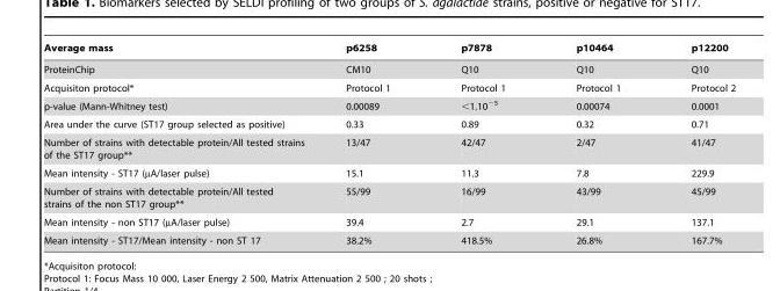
<table><thead><tr><td>Average mass</td><td>p6258</td><td>p7878</td><td>p10464</td><td>p12200</td></tr></thead><tbody><tr><td>ProteinChip</td><td>CM10</td><td>Q10</td><td>Q10</td><td>Q10</td></tr><tr><td>Acquisiton protocol*</td><td>Protocol 1</td><td>Protocol 1</td><td>Protocol 1</td><td>Protocol 2</td></tr><tr><td>p-value (Mann-Whitney test)</td><td>0.00089</td><td>&lt;1.10<sup>−5</sup></td><td>0.00074</td><td>0.0001</td></tr><tr><td>Area under the curve (ST17 group selected as positive)</td><td>0.33</td><td>0.89</td><td>0.32</td><td>0.71</td></tr><tr><td>Number of strains with detectable protein/All tested strains of the ST17 group**</td><td>13/47</td><td>42/47</td><td>2/47</td><td>41/47</td></tr><tr><td>Mean intensity - ST17 (µA/laser pulse)</td><td>15.1</td><td>11.3</td><td>7.8</td><td>229.9</td></tr><tr><td>Number of strains with detectable protein/All tested strains of the non ST17 group**</td><td>55/99</td><td>16/99</td><td>43/99</td><td>45/99</td></tr><tr><td>Mean intensity - non ST17 (µA/laser pulse)</td><td>39.4</td><td>2.7</td><td>29.1</td><td>137.1</td></tr><tr><td>Mean intensity - ST17/Mean intensity - non ST 17</td><td>38.2%</td><td>418.5%</td><td>26.8%</td><td>167.7%</td></tr></tbody></table>